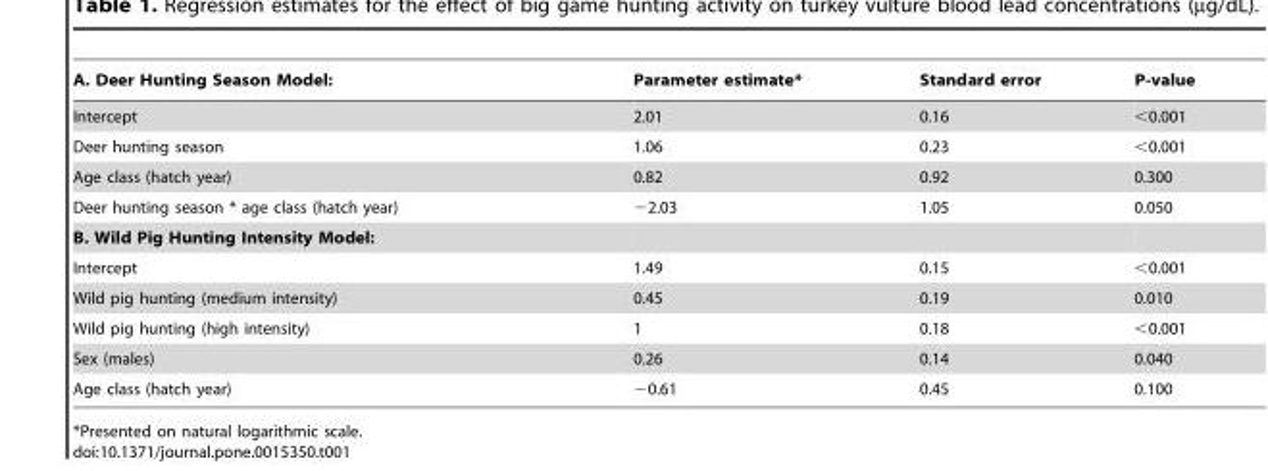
<table><thead><tr><td>A. Deer Hunting Season Model:</td><td>Parameter estimate*</td><td>Standard error</td><td>P-value</td></tr></thead><tbody><tr><td>Intercept</td><td>2.01</td><td>0.16</td><td>&lt;0.001</td></tr><tr><td>Deer hunting season</td><td>1.06</td><td>0.23</td><td>&lt;0.001</td></tr><tr><td>Age class (hatch year)</td><td>0.82</td><td>0.92</td><td>0.300</td></tr><tr><td>Deer hunting season * age class (hatch year)</td><td>−2.03</td><td>1.05</td><td>0.050</td></tr><tr><td colspan="4">B. Wild Pig Hunting Intensity Model:</td></tr><tr><td>Intercept</td><td>1.49</td><td>0.15</td><td>&lt;0.001</td></tr><tr><td>Wild pig hunting (medium intensity)</td><td>0.45</td><td>0.19</td><td>0.010</td></tr><tr><td>Wild pig hunting (high intensity)</td><td>1</td><td>0.18</td><td>&lt;0.001</td></tr><tr><td>Sex (males)</td><td>0.26</td><td>0.14</td><td>0.040</td></tr><tr><td>Age class (hatch year)</td><td>−0.61</td><td>0.45</td><td>0.100</td></tr></tbody></table>